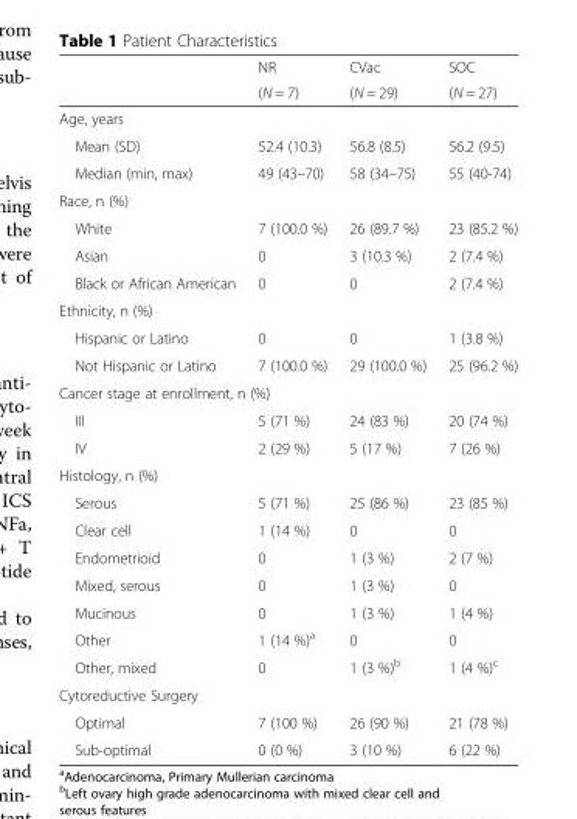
<table><thead><tr><td rowspan="2"></td><td rowspan="2">NR (N = 7)</td><td rowspan="2">CVac (N = 29)</td><td rowspan="2">SOC (N = 27)</td></tr><tr></tr></thead><tbody><tr><td colspan="4">Age, years</td></tr><tr><td>Mean (SD)</td><td>52.4 (10.3)</td><td>56.8 (8.5)</td><td>56.2 (9.5)</td></tr><tr><td>Median (min, max)</td><td>49 (43–70)</td><td>58 (34–75)</td><td>55 (40-74)</td></tr><tr><td colspan="4">Race, n (%)</td></tr><tr><td>White</td><td>7 (100.0 %)</td><td>26 (89.7 %)</td><td>23 (85.2 %)</td></tr><tr><td>Asian</td><td>0</td><td>3 (10.3 %)</td><td>2 (7.4 %)</td></tr><tr><td>Black or African American</td><td>0</td><td>0</td><td>2 (7.4 %)</td></tr><tr><td colspan="4">Ethnicity, n (%)</td></tr><tr><td>Hispanic or Latino</td><td>0</td><td>0</td><td>1 (3.8 %)</td></tr><tr><td>Not Hispanic or Latino</td><td>7 (100.0 %)</td><td>29 (100.0 %)</td><td>25 (96.2 %)</td></tr><tr><td colspan="4">Cancer stage at enrollment, n (%)</td></tr><tr><td>III</td><td>5 (71 %)</td><td>24 (83 %)</td><td>20 (74 %)</td></tr><tr><td>IV</td><td>2 (29 %)</td><td>5 (17 %)</td><td>7 (26 %)</td></tr><tr><td colspan="4">Histology, n (%)</td></tr><tr><td>Serous</td><td>5 (71 %)</td><td>25 (86 %)</td><td>23 (85 %)</td></tr><tr><td>Clear cell</td><td>1 (14 %)</td><td>0</td><td>0</td></tr><tr><td>Endometrioid</td><td>0</td><td>1 (3 %)</td><td>2 (7 %)</td></tr><tr><td>Mixed, serous</td><td>0</td><td>1 (3 %)</td><td>0</td></tr><tr><td>Mucinous</td><td>0</td><td>1 (3 %)</td><td>1 (4 %)</td></tr><tr><td>Other</td><td>1 (14 %)<sup>a</sup></td><td>0</td><td>0</td></tr><tr><td>Other, mixed</td><td>0</td><td>1 (3 %)<sup>b</sup></td><td>1 (4 %)<sup>c</sup></td></tr><tr><td colspan="4">Cytoreductive Surgery</td></tr><tr><td>Optimal</td><td>7 (100 %)</td><td>26 (90 %)</td><td>21 (78 %)</td></tr><tr><td>Sub-optimal</td><td>0 (0 %)</td><td>3 (10 %)</td><td>6 (22 %)</td></tr></tbody></table>